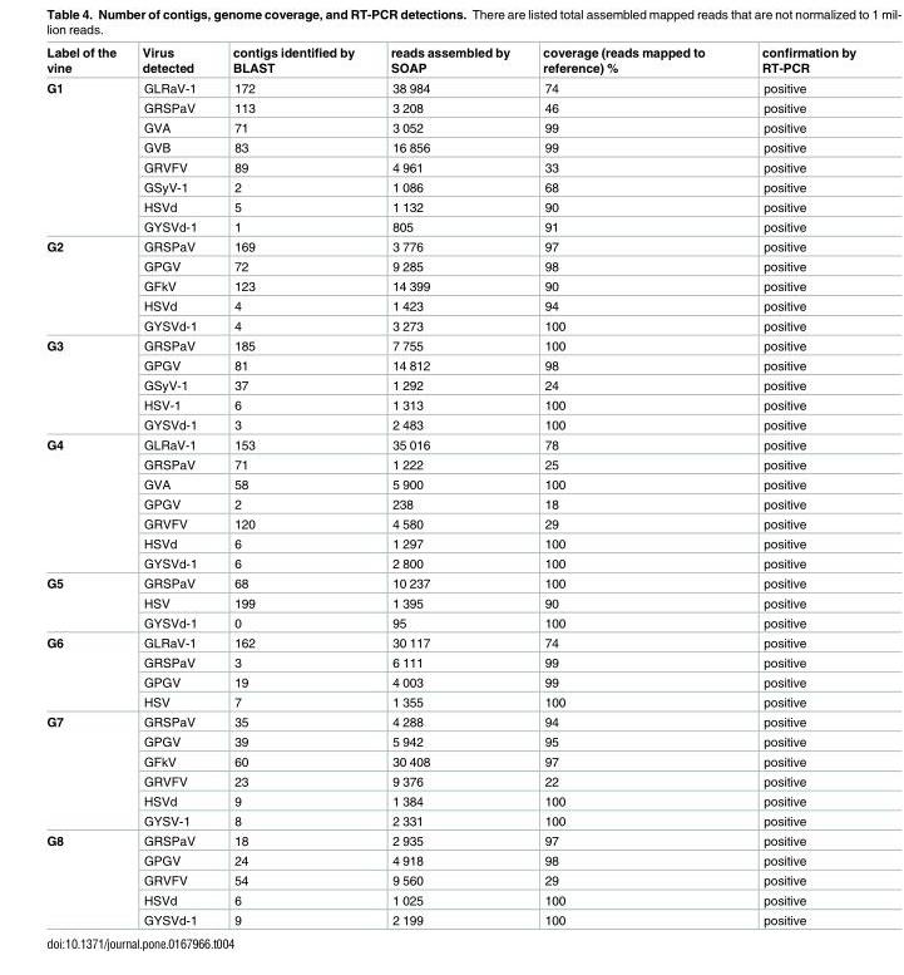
<table><thead><tr><td>Label of the vine</td><td>Virus detected</td><td>contigs identified by BLAST</td><td>reads assembled by SOAP</td><td>coverage (reads mapped to reference) %</td><td>confirmation by RT-PCR</td></tr></thead><tbody><tr><td rowspan="8">G1</td><td>GLRaV-1</td><td>172</td><td>38 984</td><td>74</td><td>positive</td></tr><tr><td>GRSPaV</td><td>113</td><td>3 208</td><td>46</td><td>positive</td></tr><tr><td>GVA</td><td>71</td><td>3 052</td><td>99</td><td>positive</td></tr><tr><td>GVB</td><td>83</td><td>16 856</td><td>99</td><td>positive</td></tr><tr><td>GRVFV</td><td>89</td><td>4 961</td><td>33</td><td>positive</td></tr><tr><td>GSyV-1</td><td>2</td><td>1 086</td><td>68</td><td>positive</td></tr><tr><td>HSVd</td><td>5</td><td>1 132</td><td>90</td><td>positive</td></tr><tr><td>GYSVd-1</td><td>1</td><td>805</td><td>91</td><td>positive</td></tr><tr><td rowspan="5">G2</td><td>GRSPaV</td><td>169</td><td>3 776</td><td>97</td><td>positive</td></tr><tr><td>GPGV</td><td>72</td><td>9 285</td><td>98</td><td>positive</td></tr><tr><td>GFkV</td><td>123</td><td>14 399</td><td>90</td><td>positive</td></tr><tr><td>HSVd</td><td>4</td><td>1 423</td><td>94</td><td>positive</td></tr><tr><td>GYSVd-1</td><td>4</td><td>3 273</td><td>100</td><td>positive</td></tr><tr><td rowspan="5">G3</td><td>GRSPaV</td><td>185</td><td>7 755</td><td>100</td><td>positive</td></tr><tr><td>GPGV</td><td>81</td><td>14 812</td><td>98</td><td>positive</td></tr><tr><td>GSyV-1</td><td>37</td><td>1 292</td><td>24</td><td>positive</td></tr><tr><td>HSV-1</td><td>6</td><td>1 313</td><td>100</td><td>positive</td></tr><tr><td>GYSVd-1</td><td>3</td><td>2 483</td><td>100</td><td>positive</td></tr><tr><td rowspan="7">G4</td><td>GLRaV-1</td><td>153</td><td>35 016</td><td>78</td><td>positive</td></tr><tr><td>GRSPaV</td><td>71</td><td>1 222</td><td>25</td><td>positive</td></tr><tr><td>GVA</td><td>58</td><td>5 900</td><td>100</td><td>positive</td></tr><tr><td>GPGV</td><td>2</td><td>238</td><td>18</td><td>positive</td></tr><tr><td>GRVFV</td><td>120</td><td>4 580</td><td>29</td><td>positive</td></tr><tr><td>HSVd</td><td>6</td><td>1 297</td><td>100</td><td>positive</td></tr><tr><td>GYSVd-1</td><td>6</td><td>2 800</td><td>100</td><td>positive</td></tr><tr><td rowspan="3">G5</td><td>GRSPaV</td><td>68</td><td>10 237</td><td>100</td><td>positive</td></tr><tr><td>HSV</td><td>199</td><td>1 395</td><td>90</td><td>positive</td></tr><tr><td>GYSVd-1</td><td>0</td><td>95</td><td>100</td><td>positive</td></tr><tr><td rowspan="4">G6</td><td>GLRaV-1</td><td>162</td><td>30 117</td><td>74</td><td>positive</td></tr><tr><td>GRSPaV</td><td>3</td><td>6 111</td><td>99</td><td>positive</td></tr><tr><td>GPGV</td><td>19</td><td>4 003</td><td>99</td><td>positive</td></tr><tr><td>HSV</td><td>7</td><td>1 355</td><td>100</td><td>positive</td></tr><tr><td rowspan="6">G7</td><td>GRSPaV</td><td>35</td><td>4 288</td><td>94</td><td>positive</td></tr><tr><td>GPGV</td><td>39</td><td>5 942</td><td>95</td><td>positive</td></tr><tr><td>GFkV</td><td>60</td><td>30 408</td><td>97</td><td>positive</td></tr><tr><td>GRVFV</td><td>23</td><td>9 376</td><td>22</td><td>positive</td></tr><tr><td>HSVd</td><td>9</td><td>1 384</td><td>100</td><td>positive</td></tr><tr><td>GYSV-1</td><td>8</td><td>2 331</td><td>100</td><td>positive</td></tr><tr><td rowspan="5">G8</td><td>GRSPaV</td><td>18</td><td>2 935</td><td>97</td><td>positive</td></tr><tr><td>GPGV</td><td>24</td><td>4 918</td><td>98</td><td>positive</td></tr><tr><td>GRVFV</td><td>54</td><td>9 560</td><td>29</td><td>positive</td></tr><tr><td>HSVd</td><td>6</td><td>1 025</td><td>100</td><td>positive</td></tr><tr><td>GYSVd-1</td><td>9</td><td>2 199</td><td>100</td><td>positive</td></tr></tbody></table>